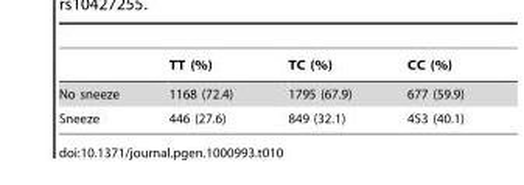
<table><thead><tr><td></td><td>TT (%)</td><td>TC (%)</td><td>CC (%)</td></tr></thead><tbody><tr><td>No sneeze</td><td>1168 (72.4)</td><td>1795 (67.9)</td><td>677 (59.9)</td></tr><tr><td>Sneeze</td><td>446 (27.6)</td><td>849 (32.1)</td><td>453 (40.1)</td></tr></tbody></table>